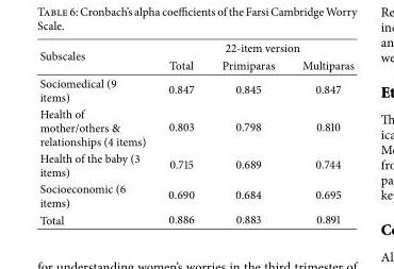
<table><thead><tr><td rowspan="2">Subscales</td><td colspan="3">22-item version</td></tr><tr><td>Total</td><td>Primiparas</td><td>Multiparas</td></tr></thead><tbody><tr><td>Sociomedical (9 items)</td><td>0.847</td><td>0.845</td><td>0.847</td></tr><tr><td>Health of mother/others &amp; relationships (4 items)</td><td>0.803</td><td>0.798</td><td>0.810</td></tr><tr><td>Health of the baby (3 items)</td><td>0.715</td><td>0.689</td><td>0.744</td></tr><tr><td>Socioeconomic (6 items)</td><td>0.690</td><td>0.684</td><td>0.695</td></tr><tr><td>Total</td><td>0.886</td><td>0.883</td><td>0.891</td></tr></tbody></table>